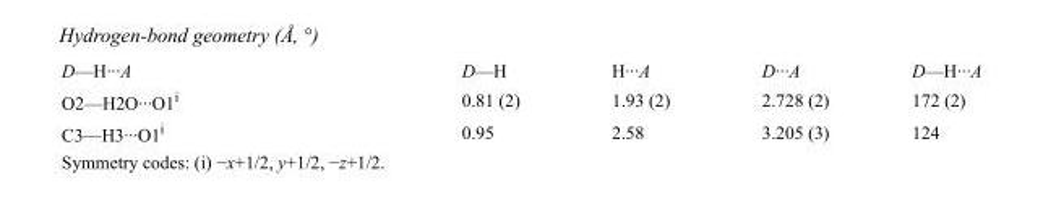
<table><tbody><tr><td>D—H···A</td><td>D—H</td><td>H···A</td><td>D···A</td><td>D—H···A</td></tr><tr><td>O2—H2O···O1<sup>i</sup></td><td>0.81 (2)</td><td>1.93 (2)</td><td>2.728 (2)</td><td>172 (2)</td></tr><tr><td>C3—H3···O1<sup>i</sup></td><td>0.95</td><td>2.58</td><td>3.205 (3)</td><td>124</td></tr></tbody></table>